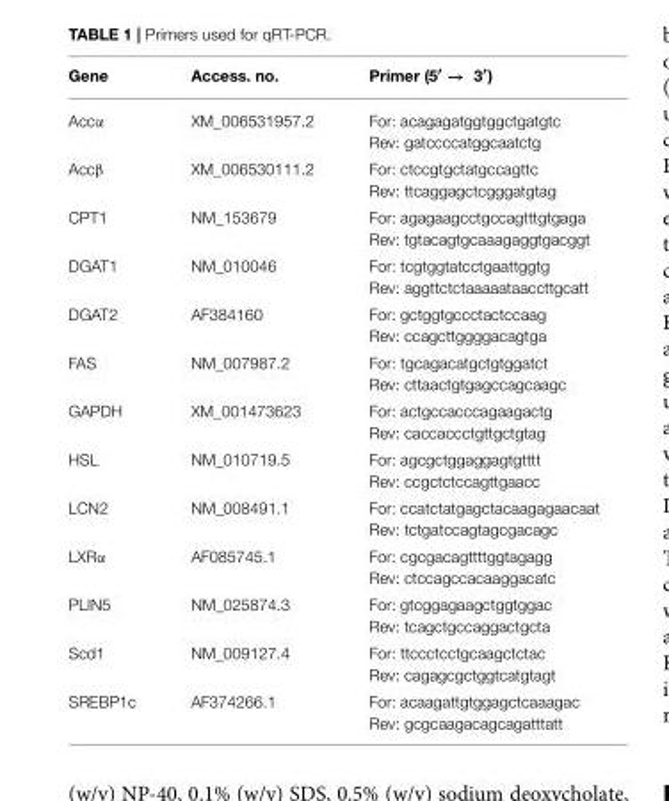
<table><thead><tr><td>Gene</td><td>Access. no.</td><td>Primer (5′ → 3′)</td></tr></thead><tbody><tr><td>Accα</td><td>XM_006531957.2</td><td>For: acagagatggtggctgatgtc Rev: gatccccatggcaatctg</td></tr><tr><td>Accβ</td><td>XM_006530111.2</td><td>For: ctccgtgctatgccagttc Rev: ttcaggagctcgggatgtag</td></tr><tr><td>CPT1</td><td>NM_153679</td><td>For: agagaagcctgccagtttgtgaga Rev: tgtacagtgcaaagaggtgacggt</td></tr><tr><td>DGAT1</td><td>NM_010046</td><td>For: tcgtggtatcctgaattggtg Rev: aggttctctaaaaataaccttgcatt</td></tr><tr><td>DGAT2</td><td>AF384160</td><td>For: gctggtgccctactccaag Rev: ccagcttggggacagtga</td></tr><tr><td>FAS</td><td>NM_007987.2</td><td>For: tgcagacatgctgtggatct Rev: cttaactgtgagccagcaagc</td></tr><tr><td>GAPDH</td><td>XM_001473623</td><td>For: actgccacccagaagactg Rev: caccaccctgttgctgtag</td></tr><tr><td>HSL</td><td>NM_010719.5</td><td>For: agcgctggaggagtgtttt Rev: ccgctctccagttgaacc</td></tr><tr><td>LCN2</td><td>NM_008491.1</td><td>For: ccatctatgagctacaagagaacaat Rev: tctgatccagtagcgacagc</td></tr><tr><td>LXRα</td><td>AF085745.1</td><td>For: cgcgacagttttggtagagg Rev: ctccagccacaaggacatc</td></tr><tr><td>PLIN5</td><td>NM_025874.3</td><td>For: gtcggagaagctggtggac Rev: tcagctgccaggactgcta</td></tr><tr><td>Scd1</td><td>NM_009127.4</td><td>For: ttccctcctgcaagctctac Rev: cagagcgctggtcatgtagt</td></tr><tr><td>SREBP1c</td><td>AF374266.1</td><td>For: acaagattgtggagctcaaagac Rev: gcgcaagacagcagatttatt</td></tr></tbody></table>